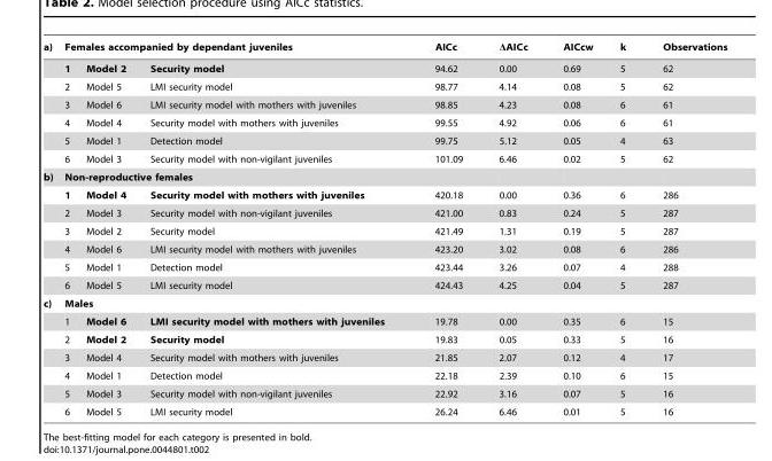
<table><thead><tr><td rowspan="2">a)</td><td colspan="3">Females accompanied by dependant juveniles</td><td rowspan="2">AICc 94.62</td><td rowspan="2">ΔAICc 0.00</td><td rowspan="2">AICcw 0.69</td><td rowspan="2">k 5</td><td rowspan="2">Observations 62</td></tr><tr><td>1</td><td>Model 2</td><td>Security model</td></tr></thead><tbody><tr><td></td><td>2</td><td>Model 5</td><td>LMI security model</td><td>98.77</td><td>4.14</td><td>0.08</td><td>5</td><td>62</td></tr><tr><td></td><td>3</td><td>Model 6</td><td>LMI security model with mothers with juveniles</td><td>98.85</td><td>4.23</td><td>0.08</td><td>6</td><td>61</td></tr><tr><td></td><td>4</td><td>Model 4</td><td>Security model with mothers with juveniles</td><td>99.55</td><td>4.92</td><td>0.06</td><td>6</td><td>61</td></tr><tr><td></td><td>5</td><td>Model 1</td><td>Detection model</td><td>99.75</td><td>5.12</td><td>0.05</td><td>4</td><td>63</td></tr><tr><td></td><td>6</td><td>Model 3</td><td>Security model with non-vigilant juveniles</td><td>101.09</td><td>6.46</td><td>0.02</td><td>5</td><td>62</td></tr><tr><td rowspan="7">b)</td><td colspan="3">Non-reproductive females</td><td></td><td></td><td></td><td></td><td></td></tr><tr><td>1</td><td>Model 4</td><td>Security model with mothers with juveniles</td><td>420.18</td><td>0.00</td><td>0.36</td><td>6</td><td>286</td></tr><tr><td>2</td><td>Model 3</td><td>Security model with non-vigilant juveniles</td><td>421.00</td><td>0.83</td><td>0.24</td><td>5</td><td>287</td></tr><tr><td>3</td><td>Model 2</td><td>Security model</td><td>421.49</td><td>1.31</td><td>0.19</td><td>5</td><td>287</td></tr><tr><td>4</td><td>Model 6</td><td>LMI security model with mothers with juveniles</td><td>423.20</td><td>3.02</td><td>0.08</td><td>6</td><td>286</td></tr><tr><td>5</td><td>Model 1</td><td>Detection model</td><td>423.44</td><td>3.26</td><td>0.07</td><td>4</td><td>288</td></tr><tr><td>6</td><td>Model 5</td><td>LMI security model</td><td>424.43</td><td>4.25</td><td>0.04</td><td>5</td><td>287</td></tr><tr><td rowspan="7">c)</td><td colspan="2">Males</td><td></td><td></td><td></td><td></td><td></td><td></td></tr><tr><td>1</td><td>Model 6</td><td>LMI security model with mothers with juveniles</td><td>19.78</td><td>0.00</td><td>0.35</td><td>6</td><td>15</td></tr><tr><td>2</td><td>Model 2</td><td>Security model</td><td>19.83</td><td>0.05</td><td>0.33</td><td>5</td><td>16</td></tr><tr><td>3</td><td>Model 4</td><td>Security model with mothers with juveniles</td><td>21.85</td><td>2.07</td><td>0.12</td><td>4</td><td>17</td></tr><tr><td>4</td><td>Model 1</td><td>Detection model</td><td>22.18</td><td>2.39</td><td>0.10</td><td>6</td><td>15</td></tr><tr><td>5</td><td>Model 3</td><td>Security model with non-vigilant juveniles</td><td>22.92</td><td>3.16</td><td>0.07</td><td>5</td><td>16</td></tr><tr><td>6</td><td>Model 5</td><td>LMI security model</td><td>26.24</td><td>6.46</td><td>0.01</td><td>5</td><td>16</td></tr></tbody></table>